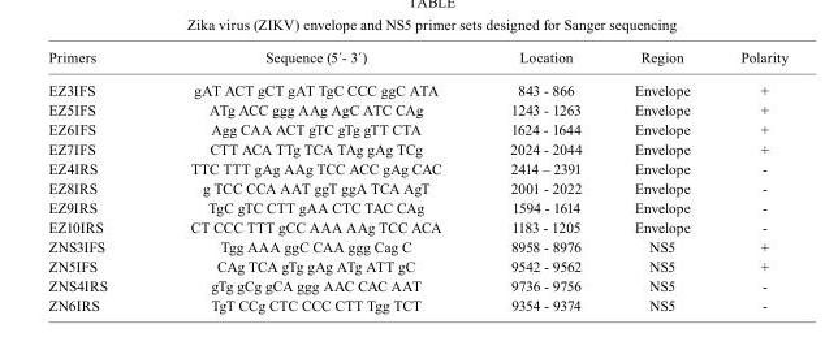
<table><thead><tr><td>Primers</td><td>Sequence (5´- 3´)</td><td>Location</td><td>Region</td><td>Polarity</td></tr></thead><tbody><tr><td>EZ3IFS</td><td>gAT ACT gCT gAT TgC CCC ggC ATA</td><td>843 - 866</td><td>Envelope</td><td>+</td></tr><tr><td>EZ5IFS</td><td>ATg ACC ggg AAg AgC ATC CAg</td><td>1243 - 1263</td><td>Envelope</td><td>+</td></tr><tr><td>EZ6IFS</td><td>Agg CAA ACT gTC gTg gTT CTA</td><td>1624 - 1644</td><td>Envelope</td><td>+</td></tr><tr><td>EZ7IFS</td><td>CTT ACA TTg TCA TAg gAg TCg</td><td>2024 - 2044</td><td>Envelope</td><td>+</td></tr><tr><td>EZ4IRS</td><td>TTC TTT gAg AAg TCC ACC gAg CAC</td><td>2414 – 2391</td><td>Envelope</td><td>-</td></tr><tr><td>EZ8IRS</td><td>g TCC CCA AAT ggT ggA TCA AgT</td><td>2001 - 2022</td><td>Envelope</td><td>-</td></tr><tr><td>EZ9IRS</td><td>TgC gTC CTT gAA CTC TAC CAg</td><td>1594 - 1614</td><td>Envelope</td><td>-</td></tr><tr><td>EZ10IRS</td><td>CT CCC TTT gCC AAA AAg TCC ACA</td><td>1183 - 1205</td><td>Envelope</td><td>-</td></tr><tr><td>ZNS3IFS</td><td>Tgg AAA ggC CAA ggg Cag C</td><td>8958 - 8976</td><td>NS5</td><td>+</td></tr><tr><td>ZN5IFS</td><td>CAg TCA gTg gAg ATg ATT gC</td><td>9542 - 9562</td><td>NS5</td><td>+</td></tr><tr><td>ZNS4IRS</td><td>gTg gCg gCA ggg AAC CAC AAT</td><td>9736 - 9756</td><td>NS5</td><td>-</td></tr><tr><td>ZN6IRS</td><td>TgT CCg CTC CCC CTT Tgg TCT</td><td>9354 - 9374</td><td>NS5</td><td>-</td></tr></tbody></table>